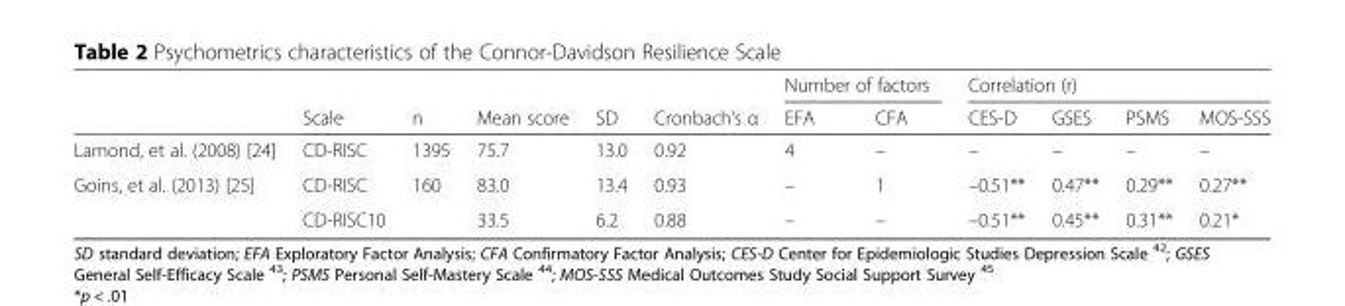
<table><thead><tr><td rowspan="2"></td><td rowspan="2">Scale</td><td rowspan="2">n</td><td rowspan="2">Mean score</td><td rowspan="2">SD</td><td rowspan="2">Cronbach’s α</td><td colspan="2">Number of factors</td><td colspan="4">Correlation (r)</td></tr><tr><td>EFA</td><td>CFA</td><td>CES-D</td><td>GSES</td><td>PSMS</td><td>MOS-SSS</td></tr></thead><tbody><tr><td>Lamond, et al. (2008) [24]</td><td>CD-RISC</td><td>1395</td><td>75.7</td><td>13.0</td><td>0.92</td><td>4</td><td>–</td><td>–</td><td>–</td><td>–</td><td>–</td></tr><tr><td rowspan="2">Goins, et al. (2013) [25]</td><td>CD-RISC</td><td>160</td><td>83.0</td><td>13.4</td><td>0.93</td><td>–</td><td>1</td><td>–0.51**</td><td>0.47**</td><td>0.29**</td><td>0.27**</td></tr><tr><td>CD-RISC10</td><td></td><td>33.5</td><td>6.2</td><td>0.88</td><td>–</td><td>–</td><td>–0.51**</td><td>0.45**</td><td>0.31**</td><td>0.21*</td></tr></tbody></table>